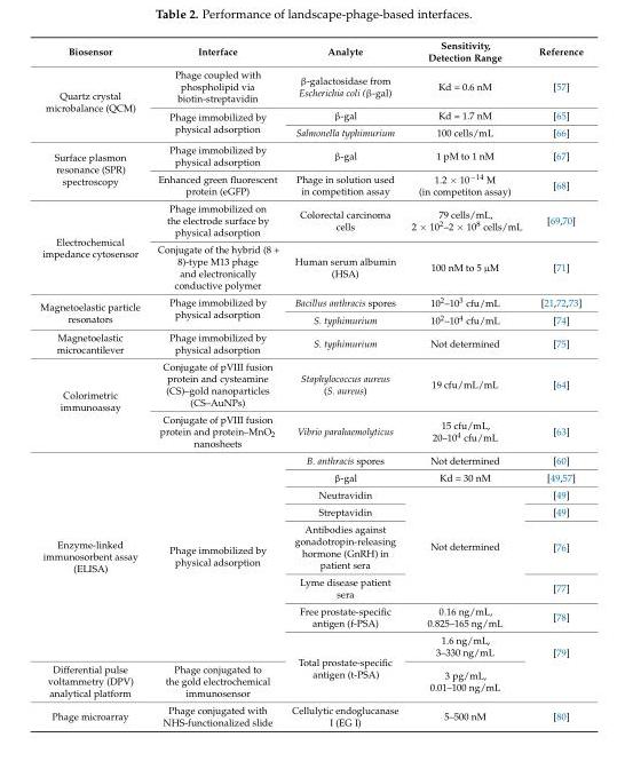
<table><thead><tr><td>Biosensor</td><td>Interface</td><td>Analyte</td><td>Sensitivity, Detection Range</td><td>Reference</td></tr></thead><tbody><tr><td rowspan="3">Quartz crystal microbalance (QCM)</td><td>Phage coupled with phospholipid via biotin-streptavidin</td><td>β-galactosidase from Escherichia coli (β-gal)</td><td>Kd = 0.6 nM</td><td>[57]</td></tr><tr><td rowspan="2">Phage immobilized by physical adsorption</td><td>β-gal</td><td>Kd = 1.7 nM</td><td>[65]</td></tr><tr><td>Salmonella typhimurium</td><td>100 cells/mL</td><td>[66]</td></tr><tr><td rowspan="2">Surface plasmon resonance (SPR) spectroscopy</td><td>Phage immobilized by physical adsorption</td><td>β-gal</td><td>1 pM to 1 nM</td><td>[67]</td></tr><tr><td>Enhanced green fluorescent protein (eGFP)</td><td>Phage in solution used in competition assay</td><td>1.2 × 10<sup>−14</sup> M (in competiton assay)</td><td>[68]</td></tr><tr><td rowspan="2">Electrochemical impedance cytosensor</td><td>Phage immobilized on the electrode surface by physical adsorption</td><td>Colorectal carcinoma cells</td><td>79 cells/mL, 2 × 10<sup>2</sup>–2 × 10<sup>8</sup> cells/mL</td><td>[69,70]</td></tr><tr><td>Conjugate of the hybrid (8 + 8)-type M13 phage and electronically conductive polymer</td><td>Human serum albumin (HSA)</td><td>100 nM to 5 µM</td><td>[71]</td></tr><tr><td rowspan="2">Magnetoelastic particle resonators</td><td rowspan="2">Phage immobilized by physical adsorption</td><td>Bacillus anthracis spores</td><td>10<sup>2</sup>–10<sup>3</sup> cfu/mL</td><td>[21,72,73]</td></tr><tr><td>S. typhimurium</td><td>10<sup>2</sup>–10<sup>4</sup> cfu/mL</td><td>[74]</td></tr><tr><td>Magnetoelastic microcantilever</td><td>Phage immobilized by physical adsorption</td><td>S. typhimurium</td><td>Not determined</td><td>[75]</td></tr><tr><td rowspan="2">Colorimetric immunoassay</td><td>Conjugate of pVIII fusion protein and cysteamine (CS)–gold nanoparticles (CS–AuNPs)</td><td>Staphylococcus aureus (S. aureus)</td><td>19 cfu/mL/mL</td><td>[64]</td></tr><tr><td>Conjugate of pVIII fusion protein and protein–MnO<sub>2</sub> nanosheets</td><td>Vibrio parahaemolyticus</td><td>15 cfu/mL, 20–10<sup>4</sup> cfu/mL</td><td>[63]</td></tr><tr><td rowspan="8">Enzyme-linked immunosorbent assay (ELISA)</td><td rowspan="8">Phage immobilized by physical adsorption</td><td>B. anthracis spores</td><td>Not determined</td><td>[60]</td></tr><tr><td>β-gal</td><td>Kd = 30 nM</td><td>[49,57]</td></tr><tr><td>Neutravidin</td><td rowspan="4">Not determined</td><td>[49]</td></tr><tr><td>Streptavidin</td><td>[49]</td></tr><tr><td>Antibodies against gonadotropin-releasing hormone (GnRH) in patient sera</td><td>[76]</td></tr><tr><td>Lyme disease patient sera</td><td>[77]</td></tr><tr><td>Free prostate-specific antigen (f-PSA)</td><td>0.16 ng/mL, 0.825–165 ng/mL</td><td>[78]</td></tr><tr><td rowspan="2">Total prostate-specific antigen (t-PSA)</td><td>1.6 ng/mL, 3–330 ng/mL</td><td rowspan="2">[79]</td></tr><tr><td>Differential pulse voltammetry (DPV) analytical platform</td><td>Phage conjugated to the gold electrochemical immunosensor</td><td>3 pg/mL, 0.01–100 ng/mL</td></tr><tr><td>Phage microarray</td><td>Phage conjugated with NHS-functionalized slide</td><td>Cellulytic endoglucanase I (EG I)</td><td>5–500 nM</td><td>[80]</td></tr></tbody></table>